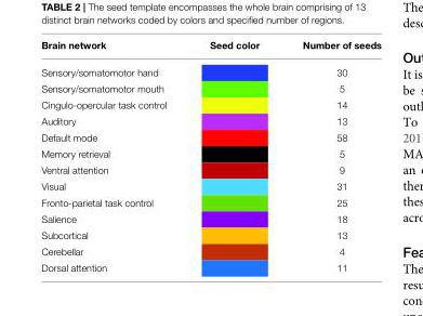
<table><thead><tr><td>Brain network</td><td>Seed color</td><td>Number of seeds</td></tr></thead><tbody><tr><td>Sensory/somatomotor hand</td><td></td><td>30</td></tr><tr><td>Sensory/somatomotor mouth</td><td></td><td>5</td></tr><tr><td>Cingulo-opercular task control</td><td></td><td>14</td></tr><tr><td>Auditory</td><td></td><td>13</td></tr><tr><td>Default mode</td><td></td><td>58</td></tr><tr><td>Memory retrieval</td><td></td><td>5</td></tr><tr><td>Ventral attention</td><td></td><td>9</td></tr><tr><td>Visual</td><td></td><td>31</td></tr><tr><td>Fronto-parietal task control</td><td></td><td>25</td></tr><tr><td>Salience</td><td></td><td>18</td></tr><tr><td>Subcortical</td><td></td><td>13</td></tr><tr><td>Cerebellar</td><td></td><td>4</td></tr><tr><td>Dorsal attention</td><td></td><td>11</td></tr></tbody></table>